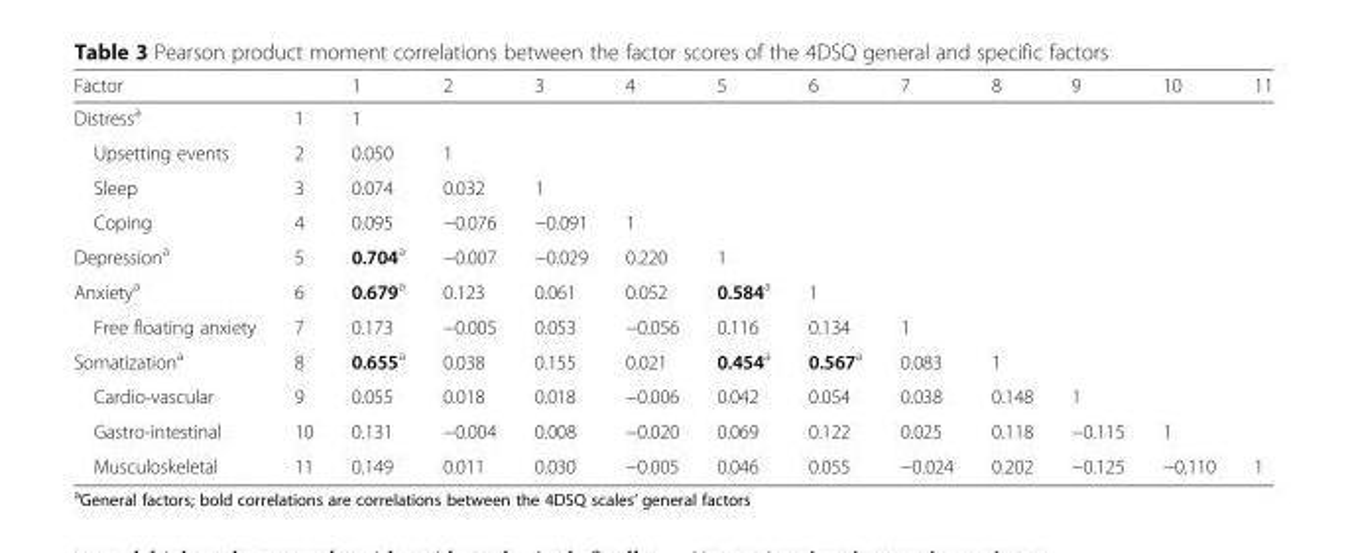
<table><thead><tr><td>Factor</td><td></td><td>1</td><td>2</td><td>3</td><td>4</td><td>5</td><td>6</td><td>7</td><td>8</td><td>9</td><td>10</td><td>11</td></tr></thead><tbody><tr><td>Distress<sup>a</sup></td><td>1</td><td>1</td><td></td><td></td><td></td><td></td><td></td><td></td><td></td><td></td><td></td><td></td></tr><tr><td>Upsetting events</td><td>2</td><td>0.050</td><td>1</td><td></td><td></td><td></td><td></td><td></td><td></td><td></td><td></td><td></td></tr><tr><td>Sleep</td><td>3</td><td>0.074</td><td>0.032</td><td>1</td><td></td><td></td><td></td><td></td><td></td><td></td><td></td><td></td></tr><tr><td>Coping</td><td>4</td><td>0.095</td><td>−0.076</td><td>−0.091</td><td>1</td><td></td><td></td><td></td><td></td><td></td><td></td><td></td></tr><tr><td>Depression<sup>a</sup></td><td>5</td><td>0.704<sup>a</sup></td><td>−0.007</td><td>−0.029</td><td>0.220</td><td>1</td><td></td><td></td><td></td><td></td><td></td><td></td></tr><tr><td>Anxiety<sup>a</sup></td><td>6</td><td>0.679<sup>a</sup></td><td>0.123</td><td>0.061</td><td>0.052</td><td>0.584<sup>a</sup></td><td>1</td><td></td><td></td><td></td><td></td><td></td></tr><tr><td>Free floating anxiety</td><td>7</td><td>0.173</td><td>−0.005</td><td>0.053</td><td>−0.056</td><td>0.116</td><td>0.134</td><td>1</td><td></td><td></td><td></td><td></td></tr><tr><td>Somatization<sup>a</sup></td><td>8</td><td>0.655<sup>a</sup></td><td>0.038</td><td>0.155</td><td>0.021</td><td>0.454<sup>a</sup></td><td>0.567<sup>a</sup></td><td>0.083</td><td>1</td><td></td><td></td><td></td></tr><tr><td>Cardio-vascular</td><td>9</td><td>0.055</td><td>0.018</td><td>0.018</td><td>−0.006</td><td>0.042</td><td>0.054</td><td>0.038</td><td>0.148</td><td>1</td><td></td><td></td></tr><tr><td>Gastro-intestinal</td><td>10</td><td>0.131</td><td>−0.004</td><td>0.008</td><td>−0.020</td><td>0.069</td><td>0.122</td><td>0.025</td><td>0.118</td><td>−0.115</td><td>1</td><td></td></tr><tr><td>Musculoskeletal</td><td>11</td><td>0.149</td><td>0.011</td><td>0.030</td><td>−0.005</td><td>0.046</td><td>0.055</td><td>−0.024</td><td>0.202</td><td>−0.125</td><td>−0.110</td><td>1</td></tr></tbody></table>